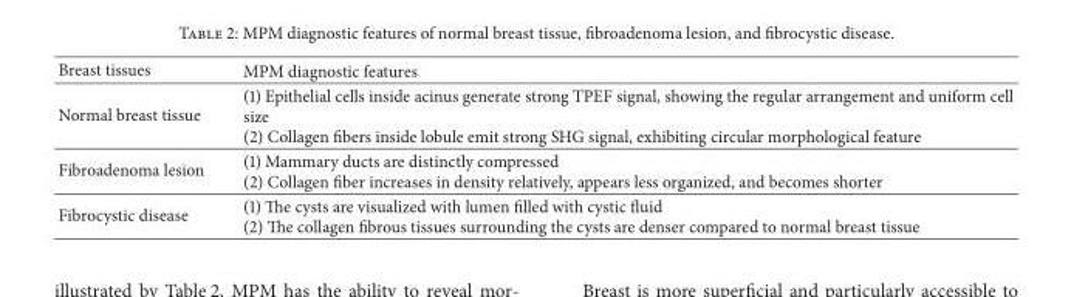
<table><thead><tr><td>Breast tissues</td><td>MPM diagnostic features</td></tr></thead><tbody><tr><td>Normal breast tissue</td><td>(1) Epithelial cells inside acinus generate strong TPEF signal, showing the regular arrangement and uniform cell size (2) Collagen fibers inside lobule emit strong SHG signal, exhibiting circular morphological feature</td></tr><tr><td>Fibroadenoma lesion</td><td>(1) Mammary ducts are distinctly compressed (2) Collagen fiber increases in density relatively, appears less organized, and becomes shorter</td></tr><tr><td>Fibrocystic disease</td><td>(1) The cysts are visualized with lumen filled with cystic fluid (2) The collagen fibrous tissues surrounding the cysts are denser compared to normal breast tissue</td></tr></tbody></table>